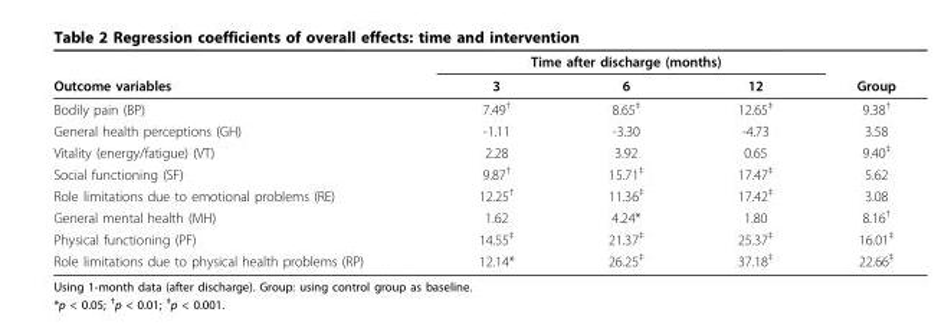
<table><thead><tr><td rowspan="2">Outcome variables</td><td colspan="3">Time after discharge (months)</td><td rowspan="2">Group</td></tr><tr><td>3</td><td>6</td><td>12</td></tr></thead><tbody><tr><td>Bodily pain (BP)</td><td>7.49<sup>†</sup></td><td>8.65<sup>‡</sup></td><td>12.65<sup>‡</sup></td><td>9.38<sup>†</sup></td></tr><tr><td>General health perceptions (GH)</td><td>-1.11</td><td>-3.30</td><td>-4.73</td><td>3.58</td></tr><tr><td>Vitality (energy/fatigue) (VT)</td><td>2.28</td><td>3.92</td><td>0.65</td><td>9.40<sup>‡</sup></td></tr><tr><td>Social functioning (SF)</td><td>9.87<sup>†</sup></td><td>15.71<sup>‡</sup></td><td>17.47<sup>‡</sup></td><td>5.62</td></tr><tr><td>Role limitations due to emotional problems (RE)</td><td>12.25<sup>†</sup></td><td>11.36<sup>‡</sup></td><td>17.42<sup>‡</sup></td><td>3.08</td></tr><tr><td>General mental health (MH)</td><td>1.62</td><td>4.24*</td><td>1.80</td><td>8.16<sup>†</sup></td></tr><tr><td>Physical functioning (PF)</td><td>14.55<sup>‡</sup></td><td>21.37<sup>‡</sup></td><td>25.37<sup>‡</sup></td><td>16.01<sup>‡</sup></td></tr><tr><td>Role limitations due to physical health problems (RP)</td><td>12.14*</td><td>26.25<sup>‡</sup></td><td>37.18<sup>‡</sup></td><td>22.66<sup>‡</sup></td></tr></tbody></table>